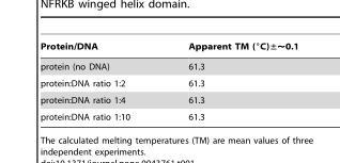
<table><thead><tr><td>Protein/DNA</td><td>Apparent TM (°C)±∼0.1</td></tr></thead><tbody><tr><td>protein (no DNA)</td><td>61.3</td></tr><tr><td>protein:DNA ratio 1:2</td><td>61.3</td></tr><tr><td>protein:DNA ratio 1:4</td><td>61.3</td></tr><tr><td>protein:DNA ratio 1:10</td><td>61.3</td></tr></tbody></table>